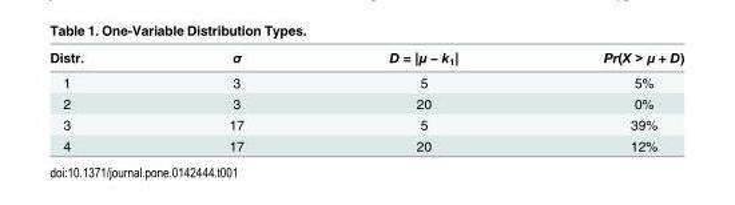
<table><thead><tr><td>Distr.</td><td>σ</td><td>D = |μ − k<sub>1</sub>|</td><td>Pr(X &gt; μ + D)</td></tr></thead><tbody><tr><td>1</td><td>3</td><td>5</td><td>5%</td></tr><tr><td>2</td><td>3</td><td>20</td><td>0%</td></tr><tr><td>3</td><td>17</td><td>5</td><td>39%</td></tr><tr><td>4</td><td>17</td><td>20</td><td>12%</td></tr></tbody></table>